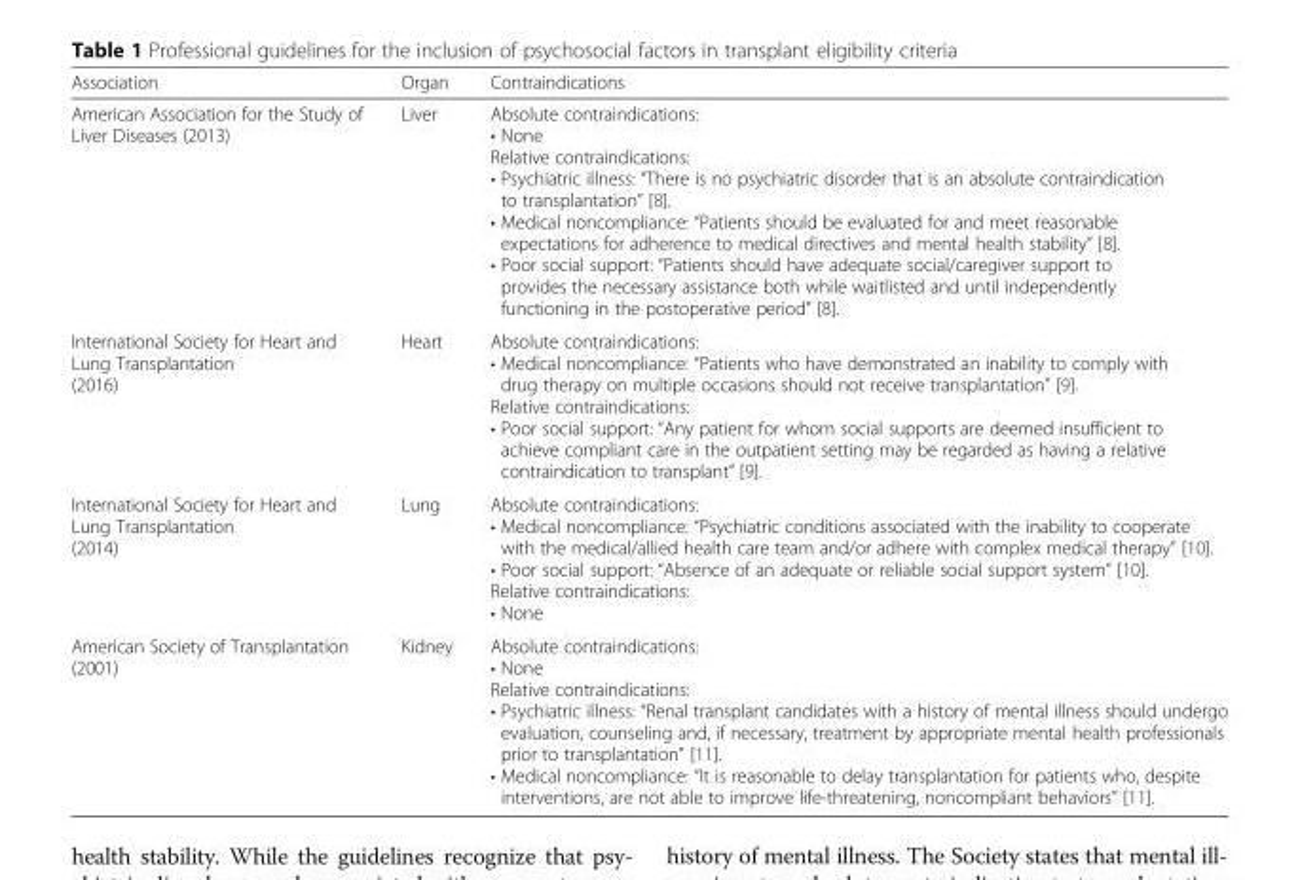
<table><thead><tr><td>Association</td><td>Organ</td><td>Contraindications</td></tr></thead><tbody><tr><td>American Association for the Study of Liver Diseases (2013)</td><td>Liver</td><td>Absolute contraindications: • None Relative contraindications: • Psychiatric illness: “There is no psychiatric disorder that is an absolute contraindication to transplantation” [8]. • Medical noncompliance: “Patients should be evaluated for and meet reasonable expectations for adherence to medical directives and mental health stability” [8]. • Poor social support: “Patients should have adequate social/caregiver support to provides the necessary assistance both while waitlisted and until independently functioning in the postoperative period” [8].</td></tr><tr><td>International Society for Heart and Lung Transplantation (2016)</td><td>Heart</td><td>Absolute contraindications: • Medical noncompliance: “Patients who have demonstrated an inability to comply with drug therapy on multiple occasions should not receive transplantation” [9]. Relative contraindications: • Poor social support: “Any patient for whom social supports are deemed insufficient to achieve compliant care in the outpatient setting may be regarded as having a relative contraindication to transplant” [9].</td></tr><tr><td>International Society for Heart and Lung Transplantation (2014)</td><td>Lung</td><td>Absolute contraindications: • Medical noncompliance: “Psychiatric conditions associated with the inability to cooperate with the medical/allied health care team and/or adhere with complex medical therapy” [10]. • Poor social support: “Absence of an adequate or reliable social support system” [10]. Relative contraindications: • None</td></tr><tr><td>American Society of Transplantation (2001)</td><td>Kidney</td><td>Absolute contraindications: • None Relative contraindications: • Psychiatric illness: “Renal transplant candidates with a history of mental illness should undergo evaluation, counseling and, if necessary, treatment by appropriate mental health professionals prior to transplantation” [11]. • Medical noncompliance: “It is reasonable to delay transplantation for patients who, despite interventions, are not able to improve life-threatening, noncompliant behaviors” [11].</td></tr></tbody></table>